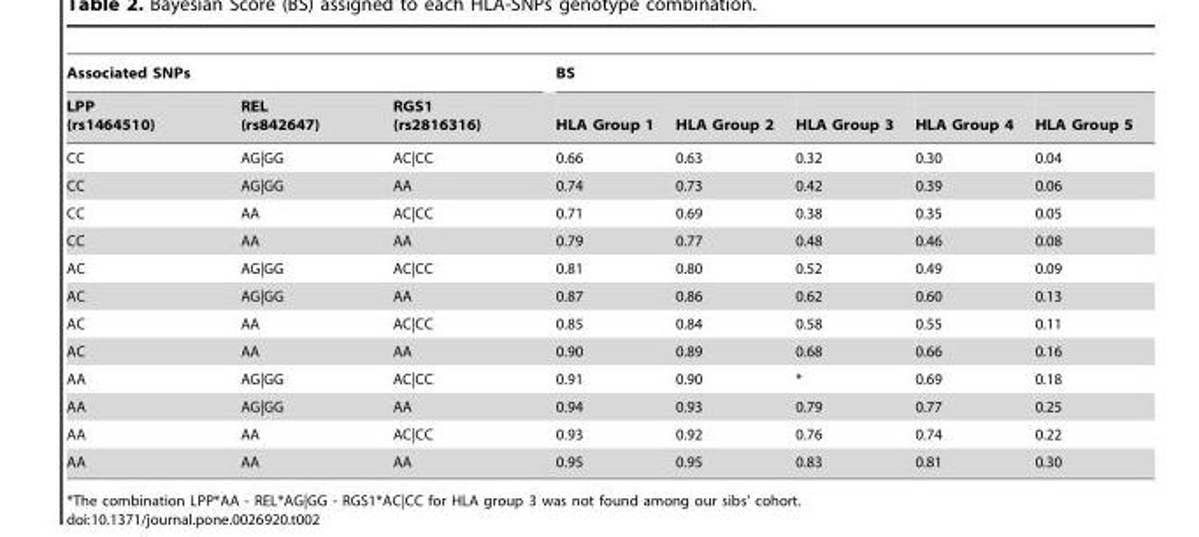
<table><thead><tr><td colspan="3">Associated SNPs</td><td colspan="5">BS</td></tr><tr><td>LPP (rs1464510)</td><td>REL (rs842647)</td><td>RGS1 (rs2816316)</td><td>HLA Group 1</td><td>HLA Group 2</td><td>HLA Group 3</td><td>HLA Group 4</td><td>HLA Group 5</td></tr></thead><tbody><tr><td>CC</td><td>AG|GG</td><td>AC|CC</td><td>0.66</td><td>0.63</td><td>0.32</td><td>0.30</td><td>0.04</td></tr><tr><td>CC</td><td>AG|GG</td><td>AA</td><td>0.74</td><td>0.73</td><td>0.42</td><td>0.39</td><td>0.06</td></tr><tr><td>CC</td><td>AA</td><td>AC|CC</td><td>0.71</td><td>0.69</td><td>0.38</td><td>0.35</td><td>0.05</td></tr><tr><td>CC</td><td>AA</td><td>AA</td><td>0.79</td><td>0.77</td><td>0.48</td><td>0.46</td><td>0.08</td></tr><tr><td>AC</td><td>AG|GG</td><td>AC|CC</td><td>0.81</td><td>0.80</td><td>0.52</td><td>0.49</td><td>0.09</td></tr><tr><td>AC</td><td>AG|GG</td><td>AA</td><td>0.87</td><td>0.86</td><td>0.62</td><td>0.60</td><td>0.13</td></tr><tr><td>AC</td><td>AA</td><td>AC|CC</td><td>0.85</td><td>0.84</td><td>0.58</td><td>0.55</td><td>0.11</td></tr><tr><td>AC</td><td>AA</td><td>AA</td><td>0.90</td><td>0.89</td><td>0.68</td><td>0.66</td><td>0.16</td></tr><tr><td>AA</td><td>AG|GG</td><td>AC|CC</td><td>0.91</td><td>0.90</td><td>*</td><td>0.69</td><td>0.18</td></tr><tr><td>AA</td><td>AG|GG</td><td>AA</td><td>0.94</td><td>0.93</td><td>0.79</td><td>0.77</td><td>0.25</td></tr><tr><td>AA</td><td>AA</td><td>AC|CC</td><td>0.93</td><td>0.92</td><td>0.76</td><td>0.74</td><td>0.22</td></tr><tr><td>AA</td><td>AA</td><td>AA</td><td>0.95</td><td>0.95</td><td>0.83</td><td>0.81</td><td>0.30</td></tr></tbody></table>